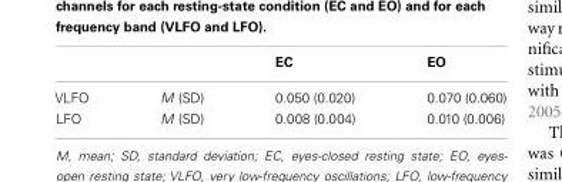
<table><thead><tr><td></td><td></td><td>EC</td><td>EO</td></tr></thead><tbody><tr><td>VLFO</td><td>M (SD)</td><td>0.050 (0.020)</td><td>0.070 (0.060)</td></tr><tr><td>LFO</td><td>M (SD)</td><td>0.008 (0.004)</td><td>0.010 (0.006)</td></tr></tbody></table>